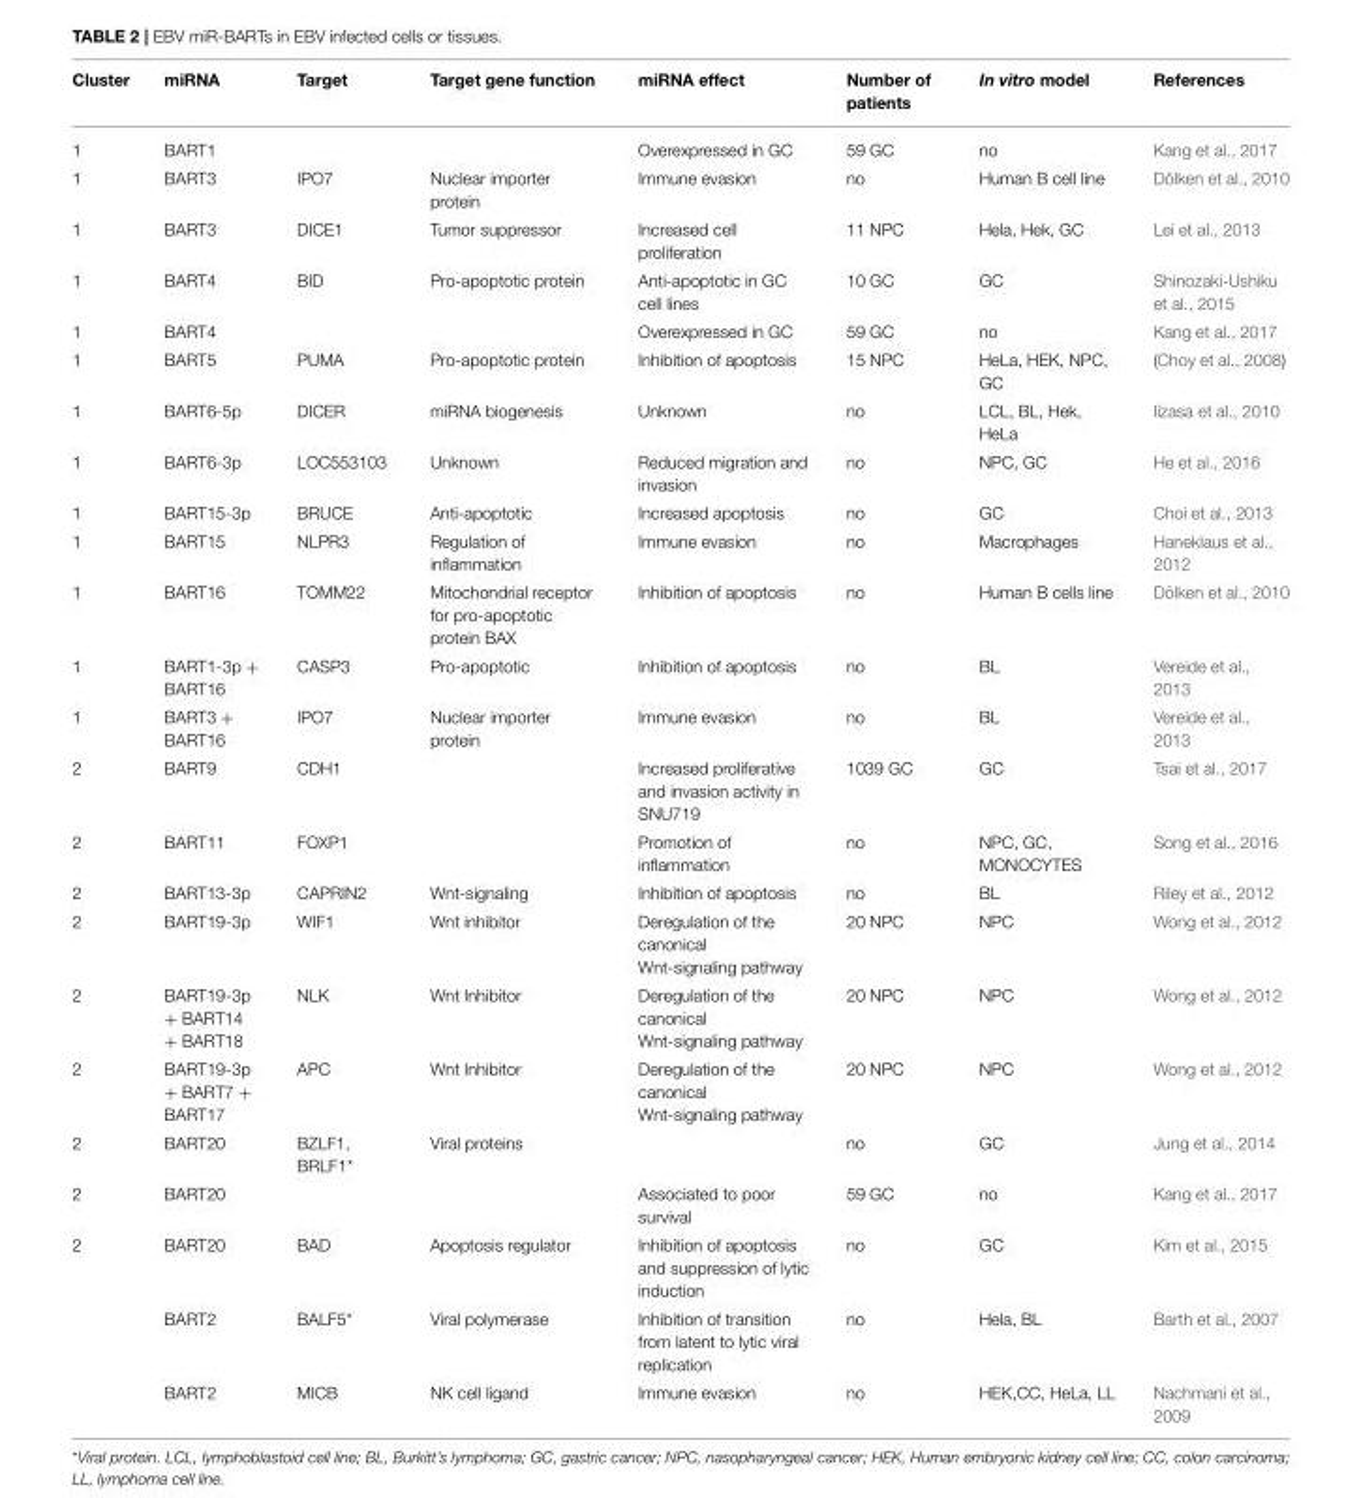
<table><thead><tr><td>Cluster</td><td>miRNA</td><td>Target</td><td>Target gene function</td><td>miRNA effect</td><td>Number of patients</td><td>In vitro model</td><td>References</td></tr></thead><tbody><tr><td>1</td><td>BART1</td><td></td><td></td><td>Overexpressed in GC</td><td>59 GC</td><td>no</td><td>Kang et al., 2017</td></tr><tr><td>1</td><td>BART3</td><td>IPO7</td><td>Nuclear importer protein</td><td>Immune evasion</td><td>no</td><td>Human B cell line</td><td>Dölken et al., 2010</td></tr><tr><td>1</td><td>BART3</td><td>DICE1</td><td>Tumor suppressor</td><td>Increased cell proliferation</td><td>11 NPC</td><td>Hela, Hek, GC</td><td>Lei et al., 2013</td></tr><tr><td>1</td><td>BART4</td><td>BID</td><td>Pro-apoptotic protein</td><td>Anti-apoptotic in GC cell lines</td><td>10 GC</td><td>GC</td><td>Shinozaki-Ushiku et al., 2015</td></tr><tr><td>1</td><td>BART4</td><td></td><td></td><td>Overexpressed in GC</td><td>59 GC</td><td>no</td><td>Kang et al., 2017</td></tr><tr><td>1</td><td>BART5</td><td>PUMA</td><td>Pro-apoptotic protein</td><td>Inhibition of apoptosis</td><td>15 NPC</td><td>HeLa, HEK, NPC, GC</td><td>(Choy et al., 2008)</td></tr><tr><td>1</td><td>BART6-5p</td><td>DICER</td><td>miRNA biogenesis</td><td>Unknown</td><td>no</td><td>LCL, BL, Hek, HeLa</td><td>Iizasa et al., 2010</td></tr><tr><td>1</td><td>BART6-3p</td><td>LOC553103</td><td>Unknown</td><td>Reduced migration and invasion</td><td>no</td><td>NPC, GC</td><td>He et al., 2016</td></tr><tr><td>1</td><td>BART15-3p</td><td>BRUCE</td><td>Anti-apoptotic</td><td>Increased apoptosis</td><td>no</td><td>GC</td><td>Choi et al., 2013</td></tr><tr><td>1</td><td>BART15</td><td>NLPR3</td><td>Regulation of inflammation</td><td>Immune evasion</td><td>no</td><td>Macrophages</td><td>Haneklaus et al., 2012</td></tr><tr><td>1</td><td>BART16</td><td>TOMM22</td><td>Mitochondrial receptor for pro-apoptotic protein BAX</td><td>Inhibition of apoptosis</td><td>no</td><td>Human B cells line</td><td>Dölken et al., 2010</td></tr><tr><td>1</td><td>BART1-3p + BART16</td><td>CASP3</td><td>Pro-apoptotic</td><td>Inhibition of apoptosis</td><td>no</td><td>BL</td><td>Vereide et al., 2013</td></tr><tr><td>1</td><td>BART3 + BART16</td><td>IPO7</td><td>Nuclear importer protein</td><td>Immune evasion</td><td>no</td><td>BL</td><td>Vereide et al., 2013</td></tr><tr><td>2</td><td>BART9</td><td>CDH1</td><td></td><td>Increased proliferative and invasion activity in SNU719</td><td>1039 GC</td><td>GC</td><td>Tsai et al., 2017</td></tr><tr><td>2</td><td>BART11</td><td>FOXP1</td><td></td><td>Promotion of inflammation</td><td>no</td><td>NPC, GC, MONOCYTES</td><td>Song et al., 2016</td></tr><tr><td>2</td><td>BART13-3p</td><td>CAPRIN2</td><td>Wnt-signaling</td><td>Inhibition of apoptosis</td><td>no</td><td>BL</td><td>Riley et al., 2012</td></tr><tr><td>2</td><td>BART19-3p</td><td>WIF1</td><td>Wnt inhibitor</td><td>Deregulation of the canonical Wnt-signaling pathway</td><td>20 NPC</td><td>NPC</td><td>Wong et al., 2012</td></tr><tr><td>2</td><td>BART19-3p + BART14 + BART18</td><td>NLK</td><td>Wnt Inhibitor</td><td>Deregulation of the canonical Wnt-signaling pathway</td><td>20 NPC</td><td>NPC</td><td>Wong et al., 2012</td></tr><tr><td>2</td><td>BART19-3p + BART7 + BART17</td><td>APC</td><td>Wnt Inhibitor</td><td>Deregulation of the canonical Wnt-signaling pathway</td><td>20 NPC</td><td>NPC</td><td>Wong et al., 2012</td></tr><tr><td>2</td><td>BART20</td><td>BZLF1, BRLF1*</td><td>Viral proteins</td><td></td><td>no</td><td>GC</td><td>Jung et al., 2014</td></tr><tr><td>2</td><td>BART20</td><td></td><td></td><td>Associated to poor survival</td><td>59 GC</td><td>no</td><td>Kang et al., 2017</td></tr><tr><td rowspan="3">2</td><td>BART20</td><td>BAD</td><td>Apoptosis regulator</td><td>Inhibition of apoptosis and suppression of lytic induction</td><td>no</td><td>GC</td><td>Kim et al., 2015</td></tr><tr><td>BART2</td><td>BALF5*</td><td>Viral polymerase</td><td>Inhibition of transition from latent to lytic viral replication</td><td>no</td><td>Hela, BL</td><td>Barth et al., 2007</td></tr><tr><td>BART2</td><td>MICB</td><td>NK cell ligand</td><td>Immune evasion</td><td>no</td><td>HEK,CC, HeLa, LL</td><td>Nachmani et al., 2009</td></tr></tbody></table>